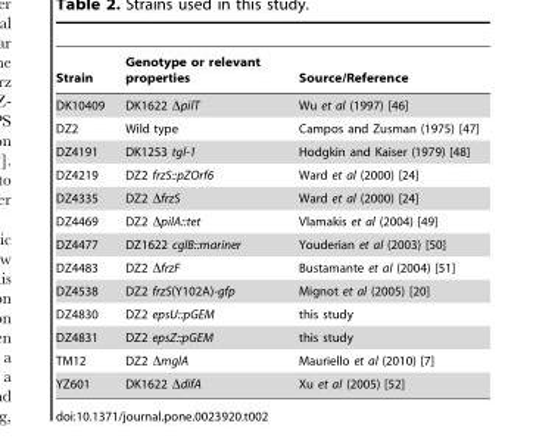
<table><thead><tr><td>Strain</td><td>Genotype or relevant properties</td><td>Source/Reference</td></tr></thead><tbody><tr><td>DK10409</td><td>DK1622 ΔpilT</td><td>Wu et al (1997) [46]</td></tr><tr><td>DZ2</td><td>Wild type</td><td>Campos and Zusman (1975) [47]</td></tr><tr><td>DZ4191</td><td>DK1253 tgl-1</td><td>Hodgkin and Kaiser (1979) [48]</td></tr><tr><td>DZ4219</td><td>DZ2 frzS::pZOrf6</td><td>Ward et al (2000) [24]</td></tr><tr><td>DZ4335</td><td>DZ2 ΔfrzS</td><td>Ward et al (2000) [24]</td></tr><tr><td>DZ4469</td><td>DZ2 ΔpilA::tet</td><td>Vlamakis et al (2004) [49]</td></tr><tr><td>DZ4477</td><td>DZ1622 cglB::mariner</td><td>Youderian et al (2003) [50]</td></tr><tr><td>DZ4483</td><td>DZ2 ΔfrzF</td><td>Bustamante et al (2004) [51]</td></tr><tr><td>DZ4538</td><td>DZ2 frzS(Y102A)-gfp</td><td>Mignot et al (2005) [20]</td></tr><tr><td>DZ4830</td><td>DZ2 epsU::pGEM</td><td>this study</td></tr><tr><td>DZ4831</td><td>DZ2 epsZ::pGEM</td><td>this study</td></tr><tr><td>TM12</td><td>DZ2 ΔmglA</td><td>Mauriello et al (2010) [7]</td></tr><tr><td>YZ601</td><td>DK1622 ΔdifA</td><td>Xu et al (2005) [52]</td></tr></tbody></table>